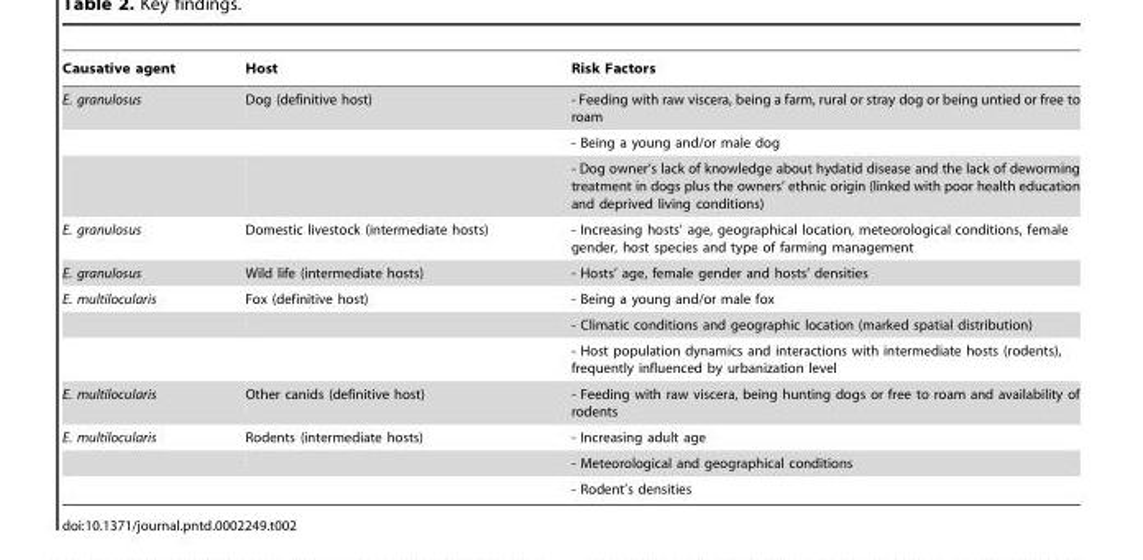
<table><thead><tr><td>Causative agent</td><td>Host</td><td>Risk Factors</td></tr></thead><tbody><tr><td rowspan="3">E. granulosus</td><td>Dog (definitive host)</td><td>- Feeding with raw viscera, being a farm, rural or stray dog or being untied or free to roam</td></tr><tr><td></td><td>- Being a young and/or male dog</td></tr><tr><td></td><td>- Dog owner’s lack of knowledge about hydatid disease and the lack of deworming treatment in dogs plus the owners’ ethnic origin (linked with poor health education and deprived living conditions)</td></tr><tr><td>E. granulosus</td><td>Domestic livestock (intermediate hosts)</td><td>- Increasing hosts’ age, geographical location, meteorological conditions, female gender, host species and type of farming management</td></tr><tr><td>E. granulosus</td><td>Wild life (intermediate hosts)</td><td>- Hosts’ age, female gender and hosts’ densities</td></tr><tr><td rowspan="3">E. multilocularis</td><td>Fox (definitive host)</td><td>- Being a young and/or male fox</td></tr><tr><td></td><td>- Climatic conditions and geographic location (marked spatial distribution)</td></tr><tr><td></td><td>- Host population dynamics and interactions with intermediate hosts (rodents), frequently influenced by urbanization level</td></tr><tr><td>E. multilocularis</td><td>Other canids (definitive host)</td><td>- Feeding with raw viscera, being hunting dogs or free to roam and availability of rodents</td></tr><tr><td rowspan="3">E. multilocularis</td><td>Rodents (intermediate hosts)</td><td>- Increasing adult age</td></tr><tr><td></td><td>- Meteorological and geographical conditions</td></tr><tr><td></td><td>- Rodent’s densities</td></tr></tbody></table>